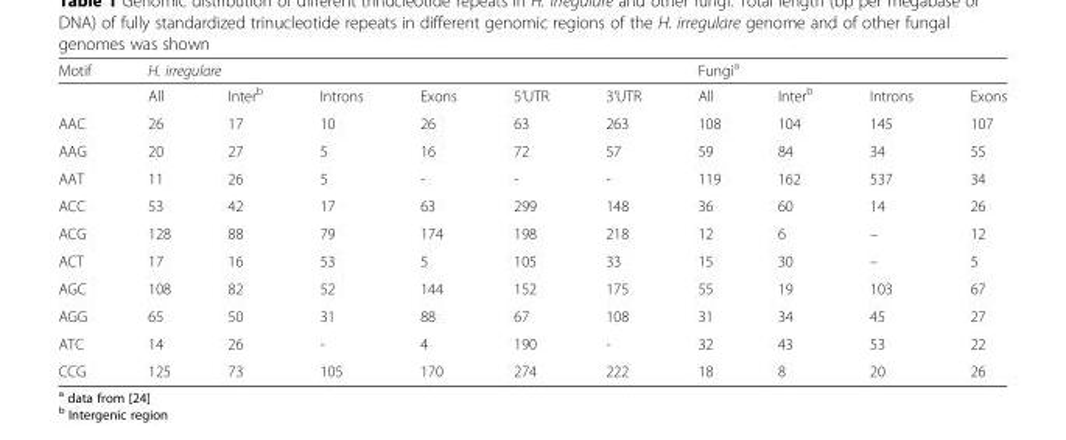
<table><thead><tr><td rowspan="2">Motif</td><td colspan="6">H. irregulare</td><td colspan="4">Fungi<sup>a</sup></td></tr><tr><td>All</td><td>Inter<sup>b</sup></td><td>Introns</td><td>Exons</td><td>5’UTR</td><td>3’UTR</td><td>All</td><td>Inter<sup>b</sup></td><td>Introns</td><td>Exons</td></tr></thead><tbody><tr><td>AAC</td><td>26</td><td>17</td><td>10</td><td>26</td><td>63</td><td>263</td><td>108</td><td>104</td><td>145</td><td>107</td></tr><tr><td>AAG</td><td>20</td><td>27</td><td>5</td><td>16</td><td>72</td><td>57</td><td>59</td><td>84</td><td>34</td><td>55</td></tr><tr><td>AAT</td><td>11</td><td>26</td><td>5</td><td>-</td><td>-</td><td>-</td><td>119</td><td>162</td><td>537</td><td>34</td></tr><tr><td>ACC</td><td>53</td><td>42</td><td>17</td><td>63</td><td>299</td><td>148</td><td>36</td><td>60</td><td>14</td><td>26</td></tr><tr><td>ACG</td><td>128</td><td>88</td><td>79</td><td>174</td><td>198</td><td>218</td><td>12</td><td>6</td><td>–</td><td>12</td></tr><tr><td>ACT</td><td>17</td><td>16</td><td>53</td><td>5</td><td>105</td><td>33</td><td>15</td><td>30</td><td>–</td><td>5</td></tr><tr><td>AGC</td><td>108</td><td>82</td><td>52</td><td>144</td><td>152</td><td>175</td><td>55</td><td>19</td><td>103</td><td>67</td></tr><tr><td>AGG</td><td>65</td><td>50</td><td>31</td><td>88</td><td>67</td><td>108</td><td>31</td><td>34</td><td>45</td><td>27</td></tr><tr><td>ATC</td><td>14</td><td>26</td><td>-</td><td>4</td><td>190</td><td>-</td><td>32</td><td>43</td><td>53</td><td>22</td></tr><tr><td>CCG</td><td>125</td><td>73</td><td>105</td><td>170</td><td>274</td><td>222</td><td>18</td><td>8</td><td>20</td><td>26</td></tr></tbody></table>